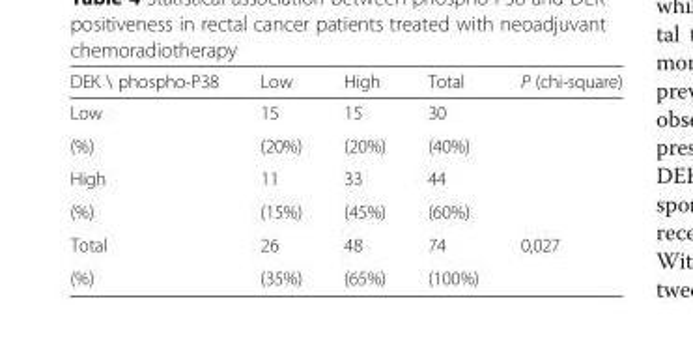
<table><thead><tr><td>DEK \ phospho-P38</td><td>Low</td><td>High</td><td>Total</td><td>P (chi-square)</td></tr></thead><tbody><tr><td>Low</td><td>15</td><td>15</td><td>30</td><td></td></tr><tr><td>(%)</td><td>(20%)</td><td>(20%)</td><td>(40%)</td><td></td></tr><tr><td>High</td><td>11</td><td>33</td><td>44</td><td></td></tr><tr><td>(%)</td><td>(15%)</td><td>(45%)</td><td>(60%)</td><td></td></tr><tr><td>Total</td><td>26</td><td>48</td><td>74</td><td>0,027</td></tr><tr><td>(%)</td><td>(35%)</td><td>(65%)</td><td>(100%)</td><td></td></tr></tbody></table>